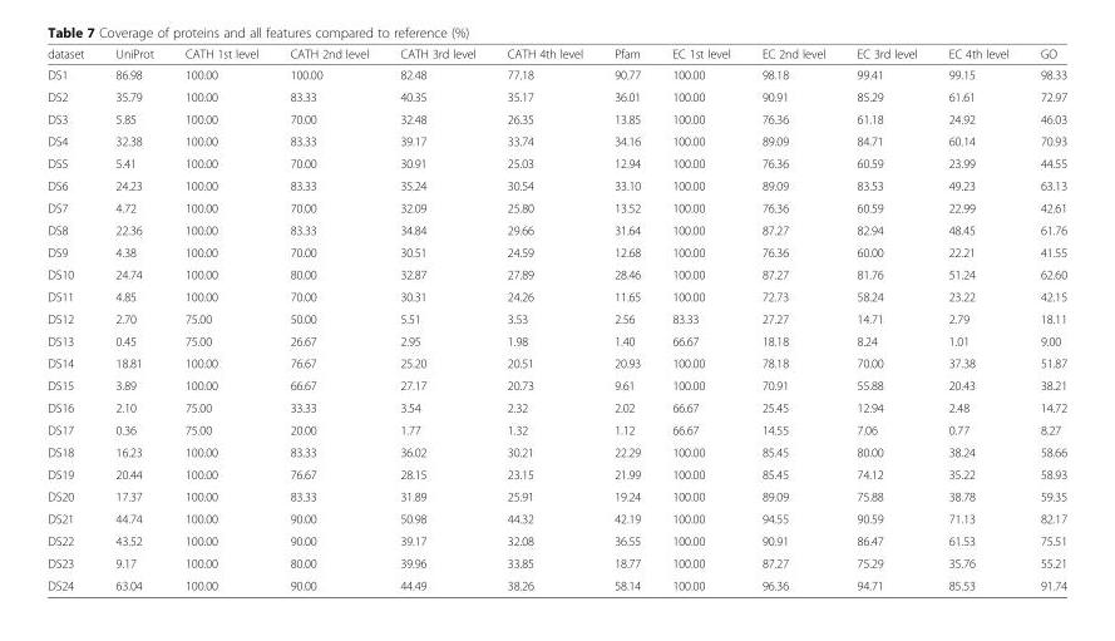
<table><thead><tr><td>dataset</td><td>UniProt</td><td>CATH 1st level</td><td>CATH 2nd level</td><td>CATH 3rd level</td><td>CATH 4th level</td><td>Pfam</td><td>EC 1st level</td><td>EC 2nd level</td><td>EC 3rd level</td><td>EC 4th level</td><td>GO</td></tr></thead><tbody><tr><td>DS1</td><td>86.98</td><td>100.00</td><td>100.00</td><td>82.48</td><td>77.18</td><td>90.77</td><td>100.00</td><td>98.18</td><td>99.41</td><td>99.15</td><td>98.33</td></tr><tr><td>DS2</td><td>35.79</td><td>100.00</td><td>83.33</td><td>40.35</td><td>35.17</td><td>36.01</td><td>100.00</td><td>90.91</td><td>85.29</td><td>61.61</td><td>72.97</td></tr><tr><td>DS3</td><td>5.85</td><td>100.00</td><td>70.00</td><td>32.48</td><td>26.35</td><td>13.85</td><td>100.00</td><td>76.36</td><td>61.18</td><td>24.92</td><td>46.03</td></tr><tr><td>DS4</td><td>32.38</td><td>100.00</td><td>83.33</td><td>39.17</td><td>33.74</td><td>34.16</td><td>100.00</td><td>89.09</td><td>84.71</td><td>60.14</td><td>70.93</td></tr><tr><td>DS5</td><td>5.41</td><td>100.00</td><td>70.00</td><td>30.91</td><td>25.03</td><td>12.94</td><td>100.00</td><td>76.36</td><td>60.59</td><td>23.99</td><td>44.55</td></tr><tr><td>DS6</td><td>24.23</td><td>100.00</td><td>83.33</td><td>35.24</td><td>30.54</td><td>33.10</td><td>100.00</td><td>89.09</td><td>83.53</td><td>49.23</td><td>63.13</td></tr><tr><td>DS7</td><td>4.72</td><td>100.00</td><td>70.00</td><td>32.09</td><td>25.80</td><td>13.52</td><td>100.00</td><td>76.36</td><td>60.59</td><td>22.99</td><td>42.61</td></tr><tr><td>DS8</td><td>22.36</td><td>100.00</td><td>83.33</td><td>34.84</td><td>29.66</td><td>31.64</td><td>100.00</td><td>87.27</td><td>82.94</td><td>48.45</td><td>61.76</td></tr><tr><td>DS9</td><td>4.38</td><td>100.00</td><td>70.00</td><td>30.51</td><td>24.59</td><td>12.68</td><td>100.00</td><td>76.36</td><td>60.00</td><td>22.21</td><td>41.55</td></tr><tr><td>DS10</td><td>24.74</td><td>100.00</td><td>80.00</td><td>32.87</td><td>27.89</td><td>28.46</td><td>100.00</td><td>87.27</td><td>81.76</td><td>51.24</td><td>62.60</td></tr><tr><td>DS11</td><td>4.85</td><td>100.00</td><td>70.00</td><td>30.31</td><td>24.26</td><td>11.65</td><td>100.00</td><td>72.73</td><td>58.24</td><td>23.22</td><td>42.15</td></tr><tr><td>DS12</td><td>2.70</td><td>75.00</td><td>50.00</td><td>5.51</td><td>3.53</td><td>2.56</td><td>83.33</td><td>27.27</td><td>14.71</td><td>2.79</td><td>18.11</td></tr><tr><td>DS13</td><td>0.45</td><td>75.00</td><td>26.67</td><td>2.95</td><td>1.98</td><td>1.40</td><td>66.67</td><td>18.18</td><td>8.24</td><td>1.01</td><td>9.00</td></tr><tr><td>DS14</td><td>18.81</td><td>100.00</td><td>76.67</td><td>25.20</td><td>20.51</td><td>20.93</td><td>100.00</td><td>78.18</td><td>70.00</td><td>37.38</td><td>51.87</td></tr><tr><td>DS15</td><td>3.89</td><td>100.00</td><td>66.67</td><td>27.17</td><td>20.73</td><td>9.61</td><td>100.00</td><td>70.91</td><td>55.88</td><td>20.43</td><td>38.21</td></tr><tr><td>DS16</td><td>2.10</td><td>75.00</td><td>33.33</td><td>3.54</td><td>2.32</td><td>2.02</td><td>66.67</td><td>25.45</td><td>12.94</td><td>2.48</td><td>14.72</td></tr><tr><td>DS17</td><td>0.36</td><td>75.00</td><td>20.00</td><td>1.77</td><td>1.32</td><td>1.12</td><td>66.67</td><td>14.55</td><td>7.06</td><td>0.77</td><td>8.27</td></tr><tr><td>DS18</td><td>16.23</td><td>100.00</td><td>83.33</td><td>36.02</td><td>30.21</td><td>22.29</td><td>100.00</td><td>85.45</td><td>80.00</td><td>38.24</td><td>58.66</td></tr><tr><td>DS19</td><td>20.44</td><td>100.00</td><td>76.67</td><td>28.15</td><td>23.15</td><td>21.99</td><td>100.00</td><td>85.45</td><td>74.12</td><td>35.22</td><td>58.93</td></tr><tr><td>DS20</td><td>17.37</td><td>100.00</td><td>83.33</td><td>31.89</td><td>25.91</td><td>19.24</td><td>100.00</td><td>89.09</td><td>75.88</td><td>38.78</td><td>59.35</td></tr><tr><td>DS21</td><td>44.74</td><td>100.00</td><td>90.00</td><td>50.98</td><td>44.32</td><td>42.19</td><td>100.00</td><td>94.55</td><td>90.59</td><td>71.13</td><td>82.17</td></tr><tr><td>DS22</td><td>43.52</td><td>100.00</td><td>90.00</td><td>39.17</td><td>32.08</td><td>36.55</td><td>100.00</td><td>90.91</td><td>86.47</td><td>61.53</td><td>75.51</td></tr><tr><td>DS23</td><td>9.17</td><td>100.00</td><td>80.00</td><td>39.96</td><td>33.85</td><td>18.77</td><td>100.00</td><td>87.27</td><td>75.29</td><td>35.76</td><td>55.21</td></tr><tr><td>DS24</td><td>63.04</td><td>100.00</td><td>90.00</td><td>44.49</td><td>38.26</td><td>58.14</td><td>100.00</td><td>96.36</td><td>94.71</td><td>85.53</td><td>91.74</td></tr></tbody></table>